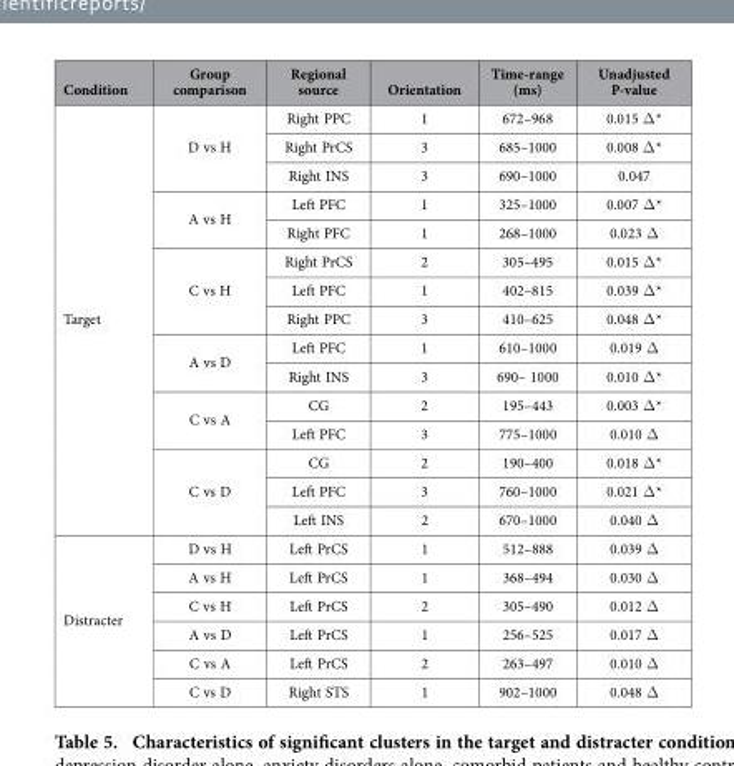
<table><thead><tr><td>Condition</td><td>Group comparison</td><td>Regional source</td><td>Orientation</td><td>Time-range (ms)</td><td>Unadjusted P-value</td></tr></thead><tbody><tr><td rowspan="15">Target</td><td rowspan="3">D vs H</td><td>Right PPC</td><td>1</td><td>672–968</td><td>0.015 Δ *</td></tr><tr><td>Right PrCS</td><td>3</td><td>685–1000</td><td>0.008 Δ *</td></tr><tr><td>Right INS</td><td>3</td><td>690–1000</td><td>0.047</td></tr><tr><td rowspan="2">A vs H</td><td>Left PFC</td><td>1</td><td>325–1000</td><td>0.007 Δ *</td></tr><tr><td>Right PFC</td><td>1</td><td>268–1000</td><td>0.023 Δ</td></tr><tr><td rowspan="3">C vs H</td><td>Right PrCS</td><td>2</td><td>305–495</td><td>0.015 Δ *</td></tr><tr><td>Left PFC</td><td>1</td><td>402–815</td><td>0.039 Δ *</td></tr><tr><td>Right PPC</td><td>3</td><td>410–625</td><td>0.048 Δ *</td></tr><tr><td rowspan="2">A vs D</td><td>Left PFC</td><td>1</td><td>610–1000</td><td>0.019 Δ</td></tr><tr><td>Right INS</td><td>3</td><td>690– 1000</td><td>0.010 Δ *</td></tr><tr><td rowspan="2">C vs A</td><td>CG</td><td>2</td><td>195–443</td><td>0.003 Δ *</td></tr><tr><td>Left PFC</td><td>3</td><td>775–1000</td><td>0.010 Δ</td></tr><tr><td rowspan="3">C vs D</td><td>CG</td><td>2</td><td>190–400</td><td>0.018 Δ *</td></tr><tr><td>Left PFC</td><td>3</td><td>760–1000</td><td>0.021 Δ *</td></tr><tr><td>Left INS</td><td>2</td><td>670–1000</td><td>0.040 Δ</td></tr><tr><td rowspan="6">Distracter</td><td>D vs H</td><td>Left PrCS</td><td>1</td><td>512–888</td><td>0.039 Δ</td></tr><tr><td>A vs H</td><td>Left PrCS</td><td>1</td><td>368–494</td><td>0.030 Δ</td></tr><tr><td>C vs H</td><td>Left PrCS</td><td>2</td><td>305–490</td><td>0.012 Δ</td></tr><tr><td>A vs D</td><td>Left PrCS</td><td>1</td><td>256–525</td><td>0.017 Δ</td></tr><tr><td>C vs A</td><td>Left PrCS</td><td>2</td><td>263–497</td><td>0.010 Δ</td></tr><tr><td>C vs D</td><td>Right STS</td><td>1</td><td>902–1000</td><td>0.048 Δ</td></tr></tbody></table>